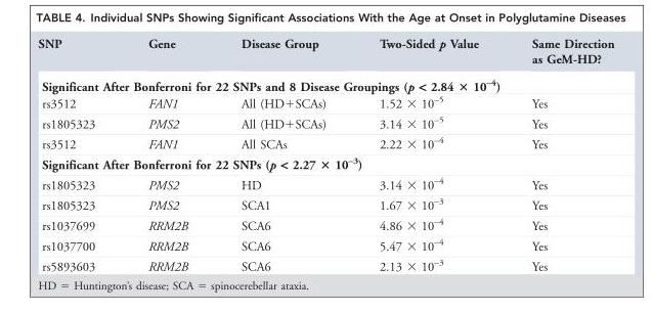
<table><thead><tr><td>SNP</td><td>Gene</td><td>Disease Group</td><td>Two-Sided p Value</td><td>Same Direction as GeM-HD?</td></tr></thead><tbody><tr><td colspan="5">Significant After Bonferroni for 22 SNPs and 8 Disease Groupings (p &lt; 2.84 × 10<sup>–4</sup>)</td></tr><tr><td>rs3512</td><td>FAN1</td><td>All (HD+SCAs)</td><td>1.52 × 10<sup>–5</sup></td><td>Yes</td></tr><tr><td>rs1805323</td><td>PMS2</td><td>All (HD+SCAs)</td><td>3.14 × 10<sup>–5</sup></td><td>Yes</td></tr><tr><td>rs3512</td><td>FAN1</td><td>All SCAs</td><td>2.22 × 10<sup>–4</sup></td><td>Yes</td></tr><tr><td colspan="5">Significant After Bonferroni for 22 SNPs (p &lt; 2.27 × 10<sup>–3</sup>)</td></tr><tr><td>rs1805323</td><td>PMS2</td><td>HD</td><td>3.14 × 10<sup>–4</sup></td><td>Yes</td></tr><tr><td>rs1805323</td><td>PMS2</td><td>SCA1</td><td>1.67 × 10<sup>–3</sup></td><td>Yes</td></tr><tr><td>rs1037699</td><td>RRM2B</td><td>SCA6</td><td>4.86 × 10<sup>–4</sup></td><td>Yes</td></tr><tr><td>rs1037700</td><td>RRM2B</td><td>SCA6</td><td>5.47 × 10<sup>–4</sup></td><td>Yes</td></tr><tr><td>rs5893603</td><td>RRM2B</td><td>SCA6</td><td>2.13 × 10<sup>–3</sup></td><td>Yes</td></tr></tbody></table>